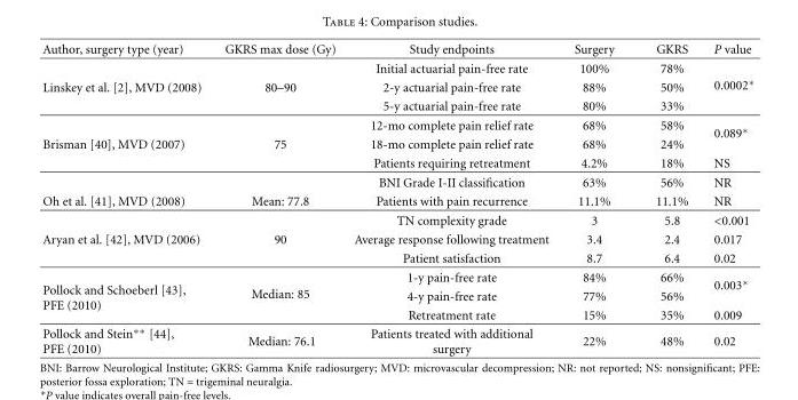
<table><thead><tr><td>Author, surgery type (year)</td><td>GKRS max dose (Gy)</td><td>Study endpoints</td><td>Surgery</td><td>GKRS</td><td>P value</td></tr></thead><tbody><tr><td></td><td></td><td>Initial actuarial pain-free rate</td><td>100%</td><td>78%</td><td rowspan="3">0.0002∗</td></tr><tr><td rowspan="3">Linskey et al. [2], MVD (2008)</td><td>80–90</td><td>2-y actuarial pain-free rate</td><td>88%</td><td>50%</td></tr><tr><td></td><td>5-y actuarial pain-free rate</td><td>80%</td><td>33%</td></tr><tr><td></td><td>12-mo complete pain relief rate</td><td>68%</td><td>58%</td><td rowspan="2">0.089∗</td></tr><tr><td rowspan="3">Brisman [40], MVD (2007)</td><td>75</td><td>18-mo complete pain relief rate</td><td>68%</td><td>24%</td></tr><tr><td></td><td>Patients requiring retreatment</td><td>4.2%</td><td>18%</td><td>NS</td></tr><tr><td></td><td>BNI Grade I-II classification</td><td>63%</td><td>56%</td><td>NR</td></tr><tr><td rowspan="2">Oh et al. [41], MVD (2008)</td><td>Mean: 77.8</td><td>Patients with pain recurrence</td><td>11.1%</td><td>11.1%</td><td>NR</td></tr><tr><td></td><td>TN complexity grade</td><td>3</td><td>5.8</td><td>&lt;0.001</td></tr><tr><td rowspan="2">Aryan et al. [42], MVD (2006)</td><td>90</td><td>Average response following treatment</td><td>3.4</td><td>2.4</td><td>0.017</td></tr><tr><td></td><td>Patient satisfaction</td><td>8.7</td><td>6.4</td><td>0.02</td></tr><tr><td rowspan="3">Pollock and Schoeberl [43], PFE (2010)</td><td rowspan="3">Median: 85</td><td>1-y pain-free rate</td><td>84%</td><td>66%</td><td rowspan="2">0.003∗</td></tr><tr><td>4-y pain-free rate</td><td>77%</td><td>56%</td></tr><tr><td>Retreatment rate</td><td>15%</td><td>35%</td><td>0.009</td></tr><tr><td>Pollock and Stein∗∗ [44], PFE (2010)</td><td>Median: 76.1</td><td>Patients treated with additional surgery</td><td>22%</td><td>48%</td><td>0.02</td></tr></tbody></table>